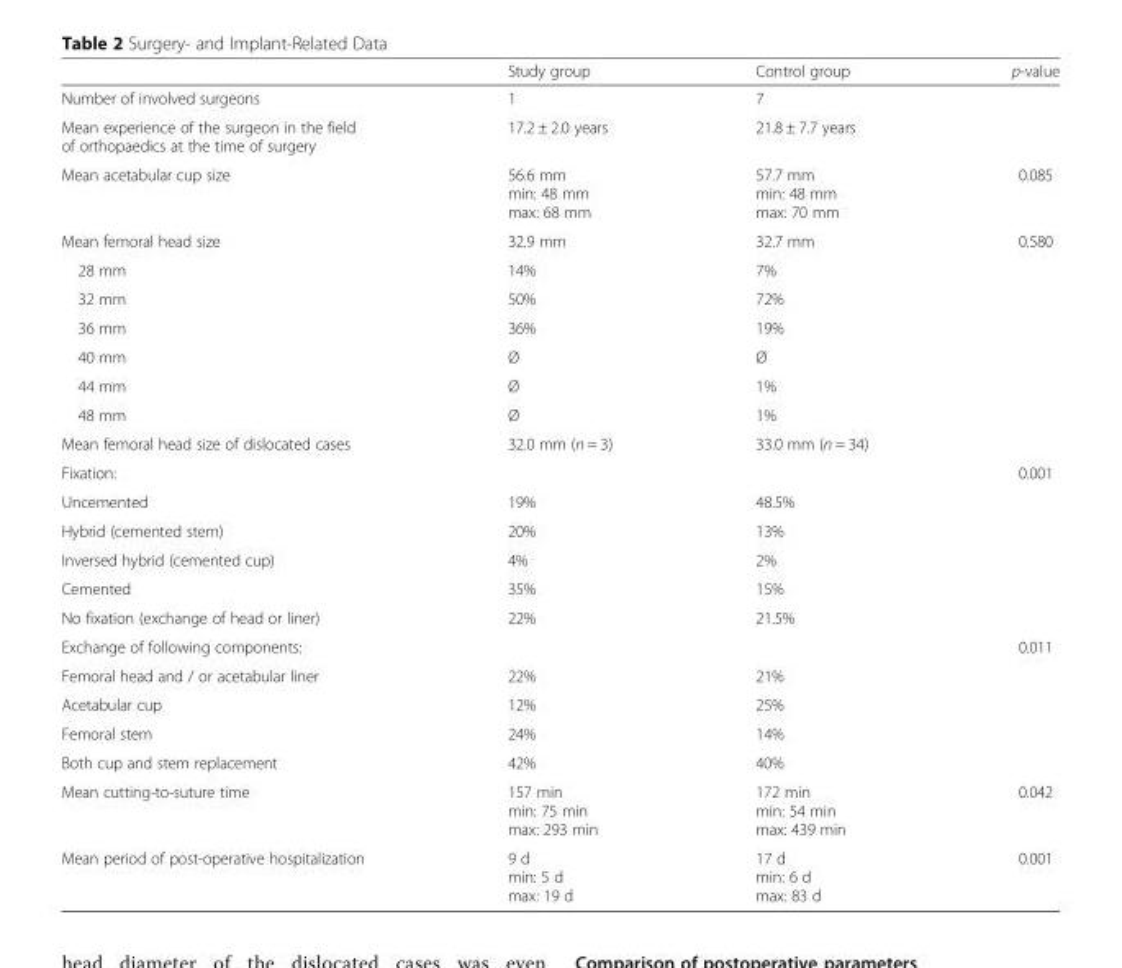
<table><thead><tr><td></td><td>Study group</td><td>Control group</td><td>p-value</td></tr></thead><tbody><tr><td>Number of involved surgeons</td><td>1</td><td>7</td><td></td></tr><tr><td>Mean experience of the surgeon in the field of orthopaedics at the time of surgery</td><td>17.2 ± 2.0 years</td><td>21.8 ± 7.7 years</td><td></td></tr><tr><td>Mean acetabular cup size</td><td>56.6 mm min: 48 mm max: 68 mm</td><td>57.7 mm min: 48 mm max: 70 mm</td><td>0.085</td></tr><tr><td>Mean femoral head size</td><td>32.9 mm</td><td>32.7 mm</td><td>0.580</td></tr><tr><td>28 mm</td><td>14%</td><td>7%</td><td></td></tr><tr><td>32 mm</td><td>50%</td><td>72%</td><td></td></tr><tr><td>36 mm</td><td>36%</td><td>19%</td><td></td></tr><tr><td>40 mm</td><td>Ø</td><td>Ø</td><td></td></tr><tr><td>44 mm</td><td>Ø</td><td>1%</td><td></td></tr><tr><td>48 mm</td><td>Ø</td><td>1%</td><td></td></tr><tr><td>Mean femoral head size of dislocated cases</td><td>32.0 mm (n = 3)</td><td>33.0 mm (n = 34)</td><td></td></tr><tr><td>Fixation:</td><td></td><td></td><td>0.001</td></tr><tr><td>Uncemented</td><td>19%</td><td>48.5%</td><td></td></tr><tr><td>Hybrid (cemented stem)</td><td>20%</td><td>13%</td><td></td></tr><tr><td>Inversed hybrid (cemented cup)</td><td>4%</td><td>2%</td><td></td></tr><tr><td>Cemented</td><td>35%</td><td>15%</td><td></td></tr><tr><td>No fixation (exchange of head or liner)</td><td>22%</td><td>21.5%</td><td></td></tr><tr><td>Exchange of following components:</td><td></td><td></td><td>0.011</td></tr><tr><td>Femoral head and / or acetabular liner</td><td>22%</td><td>21%</td><td></td></tr><tr><td>Acetabular cup</td><td>12%</td><td>25%</td><td></td></tr><tr><td>Femoral stem</td><td>24%</td><td>14%</td><td></td></tr><tr><td>Both cup and stem replacement</td><td>42%</td><td>40%</td><td></td></tr><tr><td>Mean cutting-to-suture time</td><td>157 min min: 75 min max: 293 min</td><td>172 min min: 54 min max: 439 min</td><td>0.042</td></tr><tr><td>Mean period of post-operative hospitalization</td><td>9 d min: 5 d max: 19 d</td><td>17 d min: 6 d max: 83 d</td><td>0.001</td></tr></tbody></table>